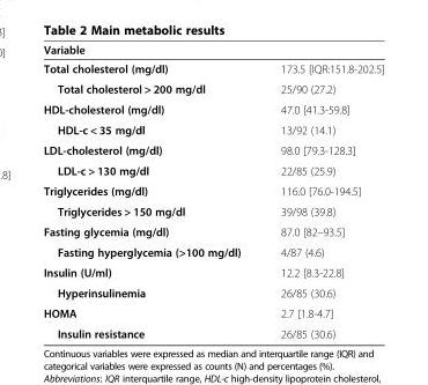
<table><thead><tr><td>Variable</td><td></td></tr></thead><tbody><tr><td>Total cholesterol (mg/dl)</td><td>173.5 [IQR:151.8-202.5]</td></tr><tr><td>Total cholesterol &gt; 200 mg/dl</td><td>25/90 (27.2)</td></tr><tr><td>HDL-cholesterol (mg/dl)</td><td>47.0 [41.3-59.8]</td></tr><tr><td>HDL-c &lt; 35 mg/dl</td><td>13/92 (14.1)</td></tr><tr><td>LDL-cholesterol (mg/dl)</td><td>98.0 [79.3-128.3]</td></tr><tr><td>LDL-c &gt; 130 mg/dl</td><td>22/85 (25.9)</td></tr><tr><td>Triglycerides (mg/dl)</td><td>116.0 [76.0-194.5]</td></tr><tr><td>Triglycerides &gt; 150 mg/dl</td><td>39/98 (39.8)</td></tr><tr><td>Fasting glycemia (mg/dl)</td><td>87.0 [82–93.5]</td></tr><tr><td>Fasting hyperglycemia (&gt;100 mg/dl)</td><td>4/87 (4.6)</td></tr><tr><td>Insulin (U/ml)</td><td>12.2 [8.3-22.8]</td></tr><tr><td>Hyperinsulinemia</td><td>26/85 (30.6)</td></tr><tr><td>HOMA</td><td>2.7 [1.8-4.7]</td></tr><tr><td>Insulin resistance</td><td>26/85 (30.6)</td></tr></tbody></table>